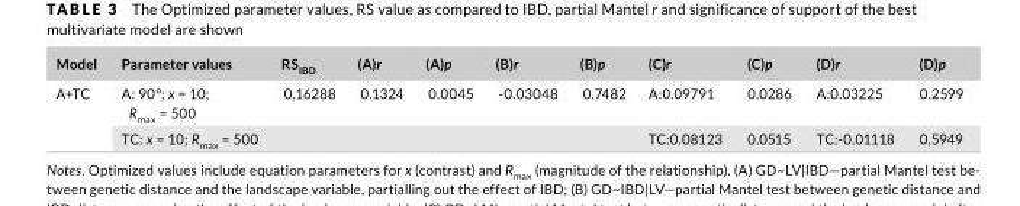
<table><thead><tr><td>Model</td><td>Parameter values</td><td>RS<sub>IBD</sub></td><td>(A)r</td><td>(A)p</td><td>(B)r</td><td>(B)p</td><td>(C)r</td><td>(C)p</td><td>(D)r</td><td>(D)p</td></tr></thead><tbody><tr><td rowspan="2">A+TC</td><td>A: 90°; x = 10; R<sub>max</sub> = 500</td><td>0.16288</td><td>0.1324</td><td>0.0045</td><td>- 0.03048</td><td>0.7482</td><td>A:0.09791</td><td>0.0286</td><td>A:0.03225</td><td>0.2599</td></tr><tr><td>TC: x = 10; R<sub>max</sub> = 500</td><td></td><td></td><td></td><td></td><td></td><td>TC:0.08123</td><td>0.0515</td><td>TC:- 0.01118</td><td>0.5949</td></tr></tbody></table>